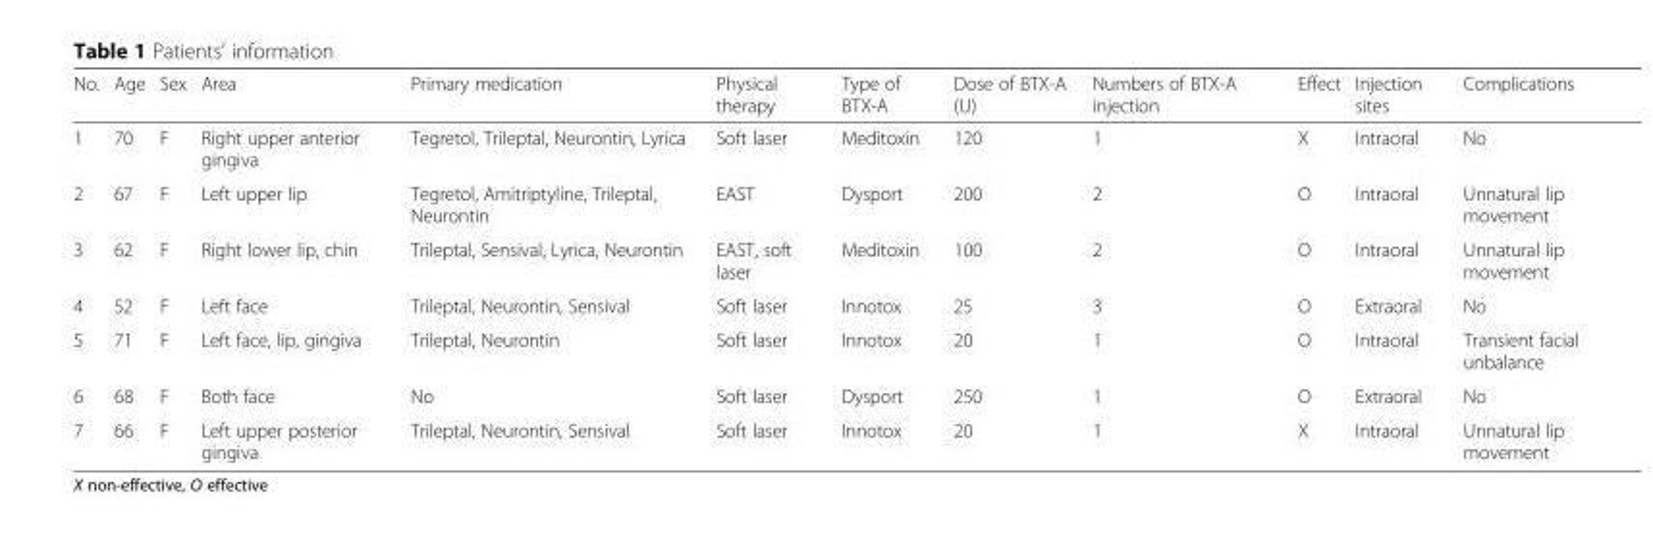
<table><thead><tr><td>No.</td><td>Age</td><td>Sex</td><td>Area</td><td>Primary medication</td><td>Physical therapy</td><td>Type of BTX-A</td><td>Dose of BTX-A (U)</td><td>Numbers of BTX-A injection</td><td>Effect</td><td>Injection sites</td><td>Complications</td></tr></thead><tbody><tr><td>1</td><td>70</td><td>F</td><td>Right upper anterior gingiva</td><td>Tegretol, Trileptal, Neurontin, Lyrica</td><td>Soft laser</td><td>Meditoxin</td><td>120</td><td>1</td><td>X</td><td>Intraoral</td><td>No</td></tr><tr><td>2</td><td>67</td><td>F</td><td>Left upper lip</td><td>Tegretol, Amitriptyline, Trileptal, Neurontin</td><td>EAST</td><td>Dysport</td><td>200</td><td>2</td><td>O</td><td>Intraoral</td><td>Unnatural lip movement</td></tr><tr><td>3</td><td>62</td><td>F</td><td>Right lower lip, chin</td><td>Trileptal, Sensival, Lyrica, Neurontin</td><td>EAST, soft laser</td><td>Meditoxin</td><td>100</td><td>2</td><td>O</td><td>Intraoral</td><td>Unnatural lip movement</td></tr><tr><td>4</td><td>52</td><td>F</td><td>Left face</td><td>Trileptal, Neurontin, Sensival</td><td>Soft laser</td><td>Innotox</td><td>25</td><td>3</td><td>O</td><td>Extraoral</td><td>No</td></tr><tr><td>5</td><td>71</td><td>F</td><td>Left face, lip, gingiva</td><td>Trileptal, Neurontin</td><td>Soft laser</td><td>Innotox</td><td>20</td><td>1</td><td>O</td><td>Intraoral</td><td>Transient facial unbalance</td></tr><tr><td>6</td><td>68</td><td>F</td><td>Both face</td><td>No</td><td>Soft laser</td><td>Dysport</td><td>250</td><td>1</td><td>O</td><td>Extraoral</td><td>No</td></tr><tr><td>7</td><td>66</td><td>F</td><td>Left upper posterior gingiva</td><td>Trileptal, Neurontin, Sensival</td><td>Soft laser</td><td>Innotox</td><td>20</td><td>1</td><td>X</td><td>Intraoral</td><td>Unnatural lip movement</td></tr></tbody></table>